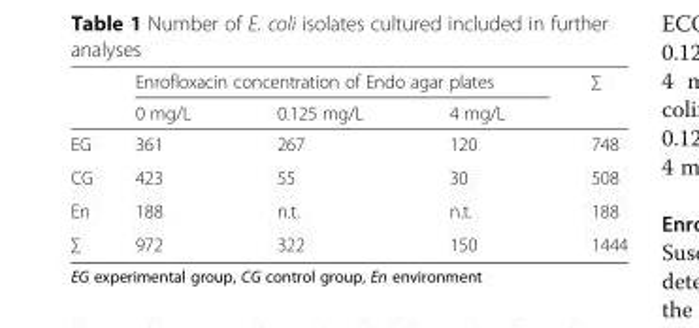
<table><thead><tr><td rowspan="2"></td><td colspan="3">Enrofloxacin concentration of Endo agar plates</td><td rowspan="2">∑</td></tr><tr><td>0 mg/L</td><td>0.125 mg/L</td><td>4 mg/L</td></tr></thead><tbody><tr><td>EG</td><td>361</td><td>267</td><td>120</td><td>748</td></tr><tr><td>CG</td><td>423</td><td>55</td><td>30</td><td>508</td></tr><tr><td>En</td><td>188</td><td>n.t.</td><td>n.t.</td><td>188</td></tr><tr><td>∑</td><td>972</td><td>322</td><td>150</td><td>1444</td></tr></tbody></table>